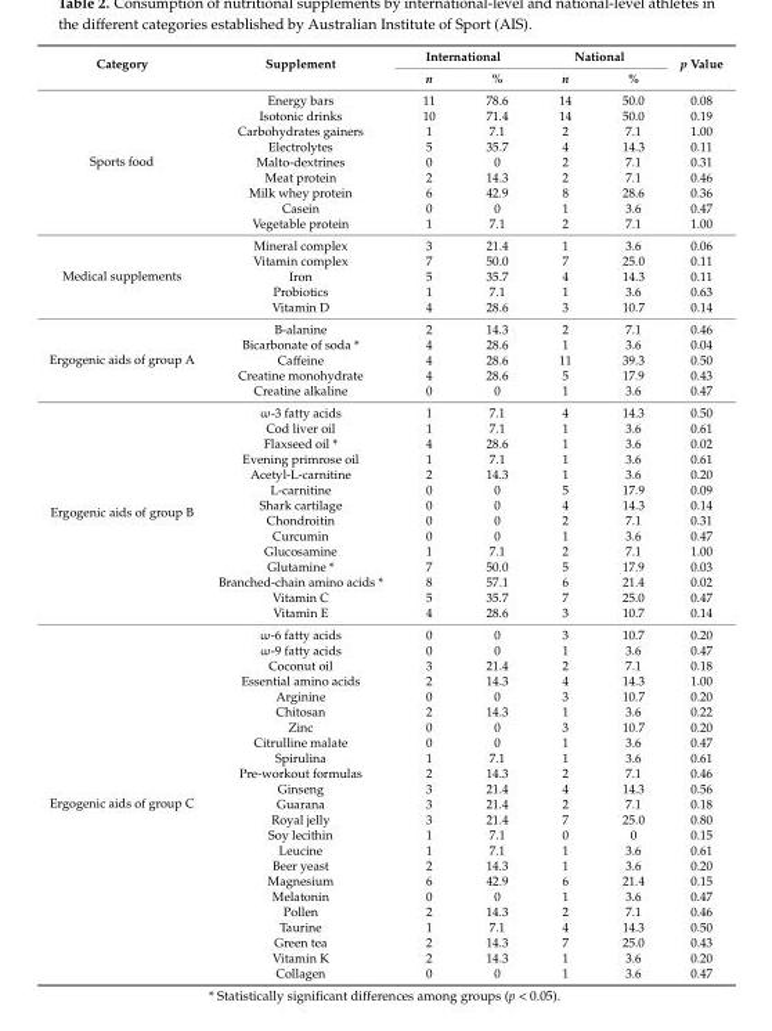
<table><thead><tr><td rowspan="2">Category</td><td rowspan="2">Supplement</td><td colspan="2">International</td><td colspan="2">National</td><td rowspan="2">p Value</td></tr><tr><td>n</td><td>%</td><td>n</td><td>%</td></tr></thead><tbody><tr><td rowspan="9">Sports food</td><td>Energy bars</td><td>11</td><td>78.6</td><td>14</td><td>50.0</td><td>0.08</td></tr><tr><td>Isotonic drinks</td><td>10</td><td>71.4</td><td>14</td><td>50.0</td><td>0.19</td></tr><tr><td>Carbohydrates gainers</td><td>1</td><td>7.1</td><td>2</td><td>7.1</td><td>1.00</td></tr><tr><td>Electrolytes</td><td>5</td><td>35.7</td><td>4</td><td>14.3</td><td>0.11</td></tr><tr><td>Malto-dextrines</td><td>0</td><td>0</td><td>2</td><td>7.1</td><td>0.31</td></tr><tr><td>Meat protein</td><td>2</td><td>14.3</td><td>2</td><td>7.1</td><td>0.46</td></tr><tr><td>Milk whey protein</td><td>6</td><td>42.9</td><td>8</td><td>28.6</td><td>0.36</td></tr><tr><td>Casein</td><td>0</td><td>0</td><td>1</td><td>3.6</td><td>0.47</td></tr><tr><td>Vegetable protein</td><td>1</td><td>7.1</td><td>2</td><td>7.1</td><td>1.00</td></tr><tr><td rowspan="5">Medical supplements</td><td>Mineral complex</td><td>3</td><td>21.4</td><td>1</td><td>3.6</td><td>0.06</td></tr><tr><td>Vitamin complex</td><td>7</td><td>50.0</td><td>7</td><td>25.0</td><td>0.11</td></tr><tr><td>Iron</td><td>5</td><td>35.7</td><td>4</td><td>14.3</td><td>0.11</td></tr><tr><td>Probiotics</td><td>1</td><td>7.1</td><td>1</td><td>3.6</td><td>0.63</td></tr><tr><td>Vitamin D</td><td>4</td><td>28.6</td><td>3</td><td>10.7</td><td>0.14</td></tr><tr><td rowspan="5">Ergogenic aids of group A</td><td>B-alanine</td><td>2</td><td>14.3</td><td>2</td><td>7.1</td><td>0.46</td></tr><tr><td>Bicarbonate of soda *</td><td>4</td><td>28.6</td><td>1</td><td>3.6</td><td>0.04</td></tr><tr><td>Caffeine</td><td>4</td><td>28.6</td><td>11</td><td>39.3</td><td>0.50</td></tr><tr><td>Creatine monohydrate</td><td>4</td><td>28.6</td><td>5</td><td>17.9</td><td>0.43</td></tr><tr><td>Creatine alkaline</td><td>0</td><td>0</td><td>1</td><td>3.6</td><td>0.47</td></tr><tr><td rowspan="14">Ergogenic aids of group B</td><td>ω-3 fatty acids</td><td>1</td><td>7.1</td><td>4</td><td>14.3</td><td>0.50</td></tr><tr><td>Cod liver oil</td><td>1</td><td>7.1</td><td>1</td><td>3.6</td><td>0.61</td></tr><tr><td>Flaxseed oil *</td><td>4</td><td>28.6</td><td>1</td><td>3.6</td><td>0.02</td></tr><tr><td>Evening primrose oil</td><td>1</td><td>7.1</td><td>1</td><td>3.6</td><td>0.61</td></tr><tr><td>Acetyl-L-carnitine</td><td>2</td><td>14.3</td><td>1</td><td>3.6</td><td>0.20</td></tr><tr><td>L-carnitine</td><td>0</td><td>0</td><td>5</td><td>17.9</td><td>0.09</td></tr><tr><td>Shark cartilage</td><td>0</td><td>0</td><td>4</td><td>14.3</td><td>0.14</td></tr><tr><td>Chondroitin</td><td>0</td><td>0</td><td>2</td><td>7.1</td><td>0.31</td></tr><tr><td>Curcumin</td><td>0</td><td>0</td><td>1</td><td>3.6</td><td>0.47</td></tr><tr><td>Glucosamine</td><td>1</td><td>7.1</td><td>2</td><td>7.1</td><td>1.00</td></tr><tr><td>Glutamine *</td><td>7</td><td>50.0</td><td>5</td><td>17.9</td><td>0.03</td></tr><tr><td>Branched-chain amino acids *</td><td>8</td><td>57.1</td><td>6</td><td>21.4</td><td>0.02</td></tr><tr><td>Vitamin C</td><td>5</td><td>35.7</td><td>7</td><td>25.0</td><td>0.47</td></tr><tr><td>Vitamin E</td><td>4</td><td>28.6</td><td>3</td><td>10.7</td><td>0.14</td></tr><tr><td rowspan="23">Ergogenic aids of group C</td><td>ω-6 fatty acids</td><td>0</td><td>0</td><td>3</td><td>10.7</td><td>0.20</td></tr><tr><td>ω-9 fatty acids</td><td>0</td><td>0</td><td>1</td><td>3.6</td><td>0.47</td></tr><tr><td>Coconut oil</td><td>3</td><td>21.4</td><td>2</td><td>7.1</td><td>0.18</td></tr><tr><td>Essential amino acids</td><td>2</td><td>14.3</td><td>4</td><td>14.3</td><td>1.00</td></tr><tr><td>Arginine</td><td>0</td><td>0</td><td>3</td><td>10.7</td><td>0.20</td></tr><tr><td>Chitosan</td><td>2</td><td>14.3</td><td>1</td><td>3.6</td><td>0.22</td></tr><tr><td>Zinc</td><td>0</td><td>0</td><td>3</td><td>10.7</td><td>0.20</td></tr><tr><td>Citrulline malate</td><td>0</td><td>0</td><td>1</td><td>3.6</td><td>0.47</td></tr><tr><td>Spirulina</td><td>1</td><td>7.1</td><td>1</td><td>3.6</td><td>0.61</td></tr><tr><td>Pre-workout formulas</td><td>2</td><td>14.3</td><td>2</td><td>7.1</td><td>0.46</td></tr><tr><td>Ginseng</td><td>3</td><td>21.4</td><td>4</td><td>14.3</td><td>0.56</td></tr><tr><td>Guarana</td><td>3</td><td>21.4</td><td>2</td><td>7.1</td><td>0.18</td></tr><tr><td>Royal jelly</td><td>3</td><td>21.4</td><td>7</td><td>25.0</td><td>0.80</td></tr><tr><td>Soy lecithin</td><td>1</td><td>7.1</td><td>0</td><td>0</td><td>0.15</td></tr><tr><td>Leucine</td><td>1</td><td>7.1</td><td>1</td><td>3.6</td><td>0.61</td></tr><tr><td>Beer yeast</td><td>2</td><td>14.3</td><td>1</td><td>3.6</td><td>0.20</td></tr><tr><td>Magnesium</td><td>6</td><td>42.9</td><td>6</td><td>21.4</td><td>0.15</td></tr><tr><td>Melatonin</td><td>0</td><td>0</td><td>1</td><td>3.6</td><td>0.47</td></tr><tr><td>Pollen</td><td>2</td><td>14.3</td><td>2</td><td>7.1</td><td>0.46</td></tr><tr><td>Taurine</td><td>1</td><td>7.1</td><td>4</td><td>14.3</td><td>0.50</td></tr><tr><td>Green tea</td><td>2</td><td>14.3</td><td>7</td><td>25.0</td><td>0.43</td></tr><tr><td>Vitamin K</td><td>2</td><td>14.3</td><td>1</td><td>3.6</td><td>0.20</td></tr><tr><td>Collagen</td><td>0</td><td>0</td><td>1</td><td>3.6</td><td>0.47</td></tr></tbody></table>